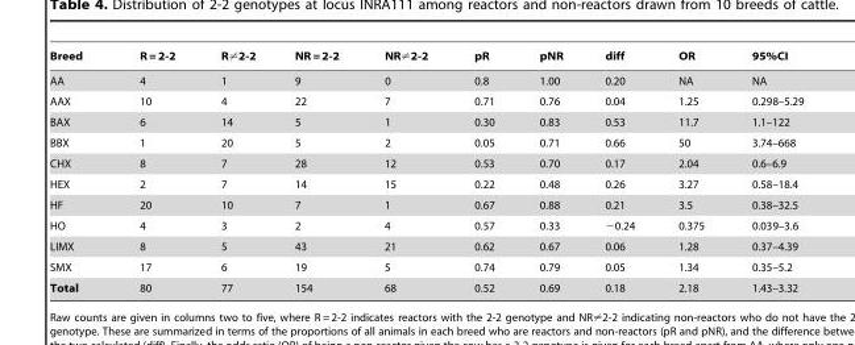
<table><thead><tr><td>Breed</td><td>R = 2-2</td><td>R≠2-2</td><td>NR = 2-2</td><td>NR≠2-2</td><td>pR</td><td>pNR</td><td>diff</td><td>OR</td><td>95%CI</td></tr></thead><tbody><tr><td>AA</td><td>4</td><td>1</td><td>9</td><td>0</td><td>0.8</td><td>1.00</td><td>0.20</td><td>NA</td><td>NA</td></tr><tr><td>AAX</td><td>10</td><td>4</td><td>22</td><td>7</td><td>0.71</td><td>0.76</td><td>0.04</td><td>1.25</td><td>0.298–5.29</td></tr><tr><td>BAX</td><td>6</td><td>14</td><td>5</td><td>1</td><td>0.30</td><td>0.83</td><td>0.53</td><td>11.7</td><td>1.1–122</td></tr><tr><td>BBX</td><td>1</td><td>20</td><td>5</td><td>2</td><td>0.05</td><td>0.71</td><td>0.66</td><td>50</td><td>3.74–668</td></tr><tr><td>CHX</td><td>8</td><td>7</td><td>28</td><td>12</td><td>0.53</td><td>0.70</td><td>0.17</td><td>2.04</td><td>0.6–6.9</td></tr><tr><td>HEX</td><td>2</td><td>7</td><td>14</td><td>15</td><td>0.22</td><td>0.48</td><td>0.26</td><td>3.27</td><td>0.58–18.4</td></tr><tr><td>HF</td><td>20</td><td>10</td><td>7</td><td>1</td><td>0.67</td><td>0.88</td><td>0.21</td><td>3.5</td><td>0.38–32.5</td></tr><tr><td>HO</td><td>4</td><td>3</td><td>2</td><td>4</td><td>0.57</td><td>0.33</td><td>−0.24</td><td>0.375</td><td>0.039–3.6</td></tr><tr><td>LIMX</td><td>8</td><td>5</td><td>43</td><td>21</td><td>0.62</td><td>0.67</td><td>0.06</td><td>1.28</td><td>0.37–4.39</td></tr><tr><td>SMX</td><td>17</td><td>6</td><td>19</td><td>5</td><td>0.74</td><td>0.79</td><td>0.05</td><td>1.34</td><td>0.35–5.2</td></tr><tr><td>Total</td><td>80</td><td>77</td><td>154</td><td>68</td><td>0.52</td><td>0.69</td><td>0.18</td><td>2.18</td><td>1.43–3.32</td></tr></tbody></table>